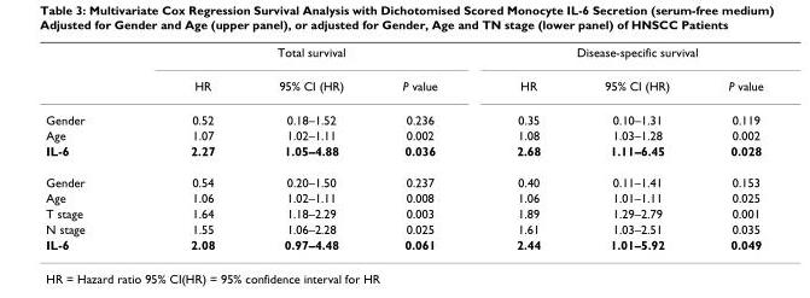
<table><thead><tr><td rowspan="2"></td><td colspan="3">Total survival</td><td colspan="3">Disease-specific survival</td></tr><tr><td>HR</td><td>95% CI (HR)</td><td>P value</td><td>HR</td><td>95% CI (HR)</td><td>P value</td></tr></thead><tbody><tr><td>Gender</td><td>0.52</td><td>0.18–1.52</td><td>0.236</td><td>0.35</td><td>0.10–1.31</td><td>0.119</td></tr><tr><td>Age</td><td>1.07</td><td>1.02–1.11</td><td>0.002</td><td>1.08</td><td>1.03–1.28</td><td>0.002</td></tr><tr><td>IL-6</td><td>2.27</td><td>1.05–4.88</td><td>0.036</td><td>2.68</td><td>1.11–6.45</td><td>0.028</td></tr><tr><td>Gender</td><td>0.54</td><td>0.20–1.50</td><td>0.237</td><td>0.40</td><td>0.11–1.41</td><td>0.153</td></tr><tr><td>Age</td><td>1.06</td><td>1.02–1.11</td><td>0.008</td><td>1.06</td><td>1.01–1.11</td><td>0.025</td></tr><tr><td>T stage</td><td>1.64</td><td>1.18–2.29</td><td>0.003</td><td>1.89</td><td>1.29–2.79</td><td>0.001</td></tr><tr><td>N stage</td><td>1.55</td><td>1.06–2.28</td><td>0.025</td><td>1.61</td><td>1.03–2.51</td><td>0.035</td></tr><tr><td>IL-6</td><td>2.08</td><td>0.97–4.48</td><td>0.061</td><td>2.44</td><td>1.01–5.92</td><td>0.049</td></tr></tbody></table>